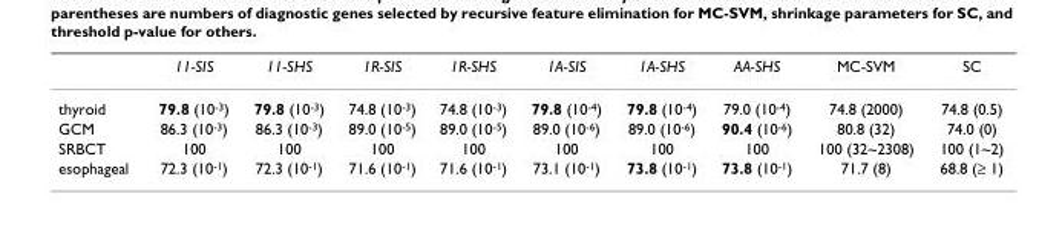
<table><thead><tr><td></td><td>11-SIS</td><td>11-SHS</td><td>1R-SIS</td><td>1R-SHS</td><td>1A-SIS</td><td>1A-SHS</td><td>AA-SHS</td><td>MC-SVM</td><td>SC</td></tr></thead><tbody><tr><td>thyroid</td><td>79.8 (10-3)</td><td>79.8 (10-3)</td><td>74.8 (10-3)</td><td>74.8 (10-3)</td><td>79.8 (10-4)</td><td>79.8 (10-4)</td><td>79.0 (10-4)</td><td>74.8 (2000)</td><td>74.8 (0.5)</td></tr><tr><td>GCM</td><td>86.3 (10-3)</td><td>86.3 (10-3)</td><td>89.0 (10-5)</td><td>89.0 (10-5)</td><td>89.0 (10-6)</td><td>89.0 (10-6)</td><td>90.4 (10-6)</td><td>80.8 (32)</td><td>74.0 (0)</td></tr><tr><td>SRBCT</td><td>100</td><td>100</td><td>100</td><td>100</td><td>100</td><td>100</td><td>100</td><td>100 (32~2308)</td><td>100 (1~2)</td></tr><tr><td>esophageal</td><td>72.3 (10-1)</td><td>72.3 (10-1)</td><td>71.6 (10-1)</td><td>71.6 (10-1)</td><td>73.1 (10-1)</td><td>73.8 (10-1)</td><td>73.8 (10-1)</td><td>71.7 (8)</td><td>68.8 (≥ 1)</td></tr></tbody></table>